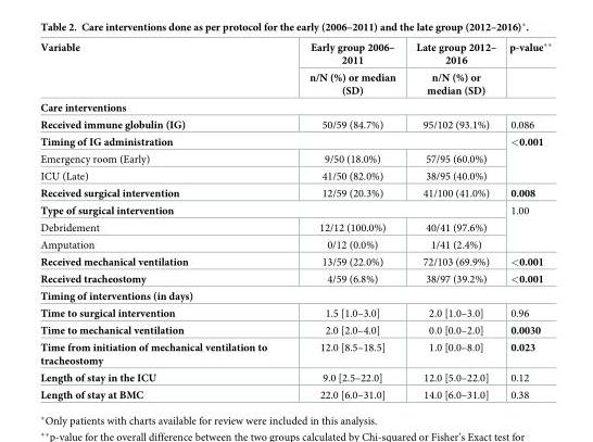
<table><thead><tr><td rowspan="2">Variable</td><td rowspan="2">Early group 2006– 2011 n/N (%) or median (SD)</td><td rowspan="2">Late group 2012– 2016 n/N (%) or median (SD)</td><td rowspan="2">p-value**</td></tr><tr></tr></thead><tbody><tr><td colspan="4">Care interventions</td></tr><tr><td>Received immune globulin (IG)</td><td>50/59 (84.7%)</td><td>95/102 (93.1%)</td><td>0.086</td></tr><tr><td colspan="3">Timing of IG administration</td><td rowspan="3">&lt;0.001</td></tr><tr><td>Emergency room (Early)</td><td>9/50 (18.0%)</td><td>57/95 (60.0%)</td></tr><tr><td>ICU (Late)</td><td>41/50 (82.0%)</td><td>38/95 (40.0%)</td></tr><tr><td>Received surgical intervention</td><td>12/59 (20.3%)</td><td>41/100 (41.0%)</td><td>0.008</td></tr><tr><td colspan="3">Type of surgical intervention</td><td rowspan="3">1.00</td></tr><tr><td>Debridement</td><td>12/12 (100.0%)</td><td>40/41 (97.6%)</td></tr><tr><td>Amputation</td><td>0/12 (0.0%)</td><td>1/41 (2.4%)</td></tr><tr><td>Received mechanical ventilation</td><td>13/59 (22.0%)</td><td>72/103 (69.9%)</td><td>&lt;0.001</td></tr><tr><td>Received tracheostomy</td><td>4/59 (6.8%)</td><td>38/97 (39.2%)</td><td>&lt;0.001</td></tr><tr><td colspan="4">Timing of interventions (in days)</td></tr><tr><td>Time to surgical intervention</td><td>1.5 [1.0–3.0]</td><td>2.0 [1.0–3.0]</td><td>0.96</td></tr><tr><td>Time to mechanical ventilation</td><td>2.0 [2.0–4.0]</td><td>0.0 [0.0–2.0]</td><td>0.0030</td></tr><tr><td>Time from initiation of mechanical ventilation to tracheostomy</td><td>12.0 [8.5–18.5]</td><td>1.0 [0.0–8.0]</td><td>0.023</td></tr><tr><td>Length of stay in the ICU</td><td>9.0 [2.5–22.0]</td><td>12.0 [5.0–22.0]</td><td>0.12</td></tr><tr><td>Length of stay at BMC</td><td>22.0 [6.0–31.0]</td><td>14.0 [6.0–31.0]</td><td>0.38</td></tr></tbody></table>